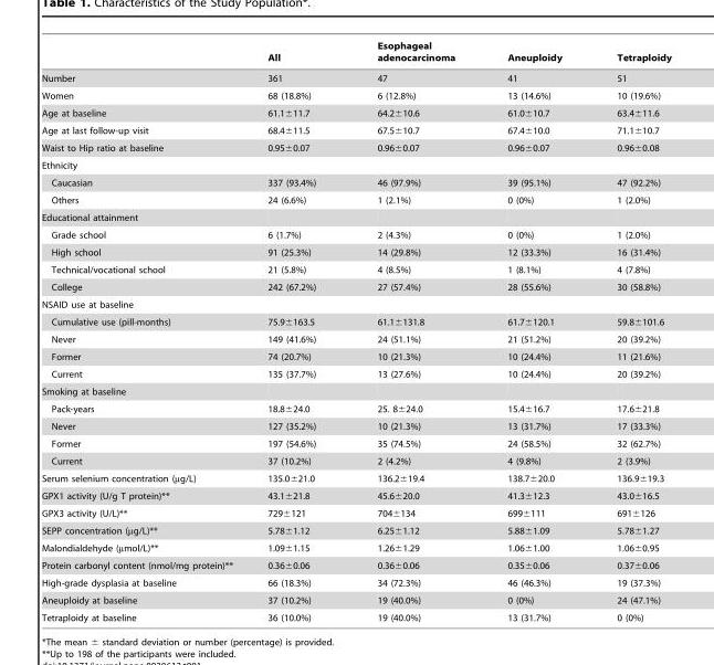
<table><thead><tr><td></td><td>All</td><td>Esophageal adenocarcinoma</td><td>Aneuploidy</td><td>Tetraploidy</td></tr></thead><tbody><tr><td>Number</td><td>361</td><td>47</td><td>41</td><td>51</td></tr><tr><td>Women</td><td>68 (18.8%)</td><td>6 (12.8%)</td><td>13 (14.6%)</td><td>10 (19.6%)</td></tr><tr><td>Age at baseline</td><td>61.1±11.7</td><td>64.2±10.6</td><td>61.0±10.7</td><td>63.4±11.6</td></tr><tr><td>Age at last follow-up visit</td><td>68.4±11.5</td><td>67.5±10.7</td><td>67.4±10.0</td><td>71.1±10.7</td></tr><tr><td>Waist to Hip ratio at baseline</td><td>0.95±0.07</td><td>0.96±0.07</td><td>0.96±0.07</td><td>0.96±0.08</td></tr><tr><td colspan="5">Ethnicity</td></tr><tr><td>Caucasian</td><td>337 (93.4%)</td><td>46 (97.9%)</td><td>39 (95.1%)</td><td>47 (92.2%)</td></tr><tr><td>Others</td><td>24 (6.6%)</td><td>1 (2.1%)</td><td>0 (0%)</td><td>1 (2.0%)</td></tr><tr><td colspan="5">Educational attainment</td></tr><tr><td>Grade school</td><td>6 (1.7%)</td><td>2 (4.3%)</td><td>0 (0%)</td><td>1 (2.0%)</td></tr><tr><td>High school</td><td>91 (25.3%)</td><td>14 (29.8%)</td><td>12 (33.3%)</td><td>16 (31.4%)</td></tr><tr><td>Technical/vocational school</td><td>21 (5.8%)</td><td>4 (8.5%)</td><td>1 (8.1%)</td><td>4 (7.8%)</td></tr><tr><td>College</td><td>242 (67.2%)</td><td>27 (57.4%)</td><td>28 (55.6%)</td><td>30 (58.8%)</td></tr><tr><td colspan="5">NSAID use at baseline</td></tr><tr><td>Cumulative use (pill-months)</td><td>75.9±163.5</td><td>61.1±131.8</td><td>61.7±120.1</td><td>59.8±101.6</td></tr><tr><td>Never</td><td>149 (41.6%)</td><td>24 (51.1%)</td><td>21 (51.2%)</td><td>20 (39.2%)</td></tr><tr><td>Former</td><td>74 (20.7%)</td><td>10 (21.3%)</td><td>10 (24.4%)</td><td>11 (21.6%)</td></tr><tr><td>Current</td><td>135 (37.7%)</td><td>13 (27.6%)</td><td>10 (24.4%)</td><td>20 (39.2%)</td></tr><tr><td colspan="5">Smoking at baseline</td></tr><tr><td>Pack-years</td><td>18.8±24.0</td><td>25. 8±24.0</td><td>15.4±16.7</td><td>17.6±21.8</td></tr><tr><td>Never</td><td>127 (35.2%)</td><td>10 (21.3%)</td><td>13 (31.7%)</td><td>17 (33.3%)</td></tr><tr><td>Former</td><td>197 (54.6%)</td><td>35 (74.5%)</td><td>24 (58.5%)</td><td>32 (62.7%)</td></tr><tr><td>Current</td><td>37 (10.2%)</td><td>2 (4.2%)</td><td>4 (9.8%)</td><td>2 (3.9%)</td></tr><tr><td>Serum selenium concentration (µg/L)</td><td>135.0±21.0</td><td>136.2±19.4</td><td>138.7±20.0</td><td>136.9±19.3</td></tr><tr><td>GPX1 activity (U/g T protein)**</td><td>43.1±21.8</td><td>45.6±20.0</td><td>41.3±12.3</td><td>43.0±16.5</td></tr><tr><td>GPX3 activity (U/L)**</td><td>729±121</td><td>704±134</td><td>699±111</td><td>691±126</td></tr><tr><td>SEPP concentration (µg/L)**</td><td>5.78±1.12</td><td>6.25±1.12</td><td>5.88±1.09</td><td>5.78±1.27</td></tr><tr><td>Malondialdehyde (µmol/L)**</td><td>1.09±1.15</td><td>1.26±1.29</td><td>1.06±1.00</td><td>1.06±0.95</td></tr><tr><td>Protein carbonyl content (nmol/mg protein)**</td><td>0.36±0.06</td><td>0.36±0.06</td><td>0.35±0.06</td><td>0.37±0.06</td></tr><tr><td>High-grade dysplasia at baseline</td><td>66 (18.3%)</td><td>34 (72.3%)</td><td>46 (46.3%)</td><td>19 (37.3%)</td></tr><tr><td>Aneuploidy at baseline</td><td>37 (10.2%)</td><td>19 (40.0%)</td><td>0 (0%)</td><td>24 (47.1%)</td></tr><tr><td>Tetraploidy at baseline</td><td>36 (10.0%)</td><td>19 (40.0%)</td><td>13 (31.7%)</td><td>0 (0%)</td></tr></tbody></table>